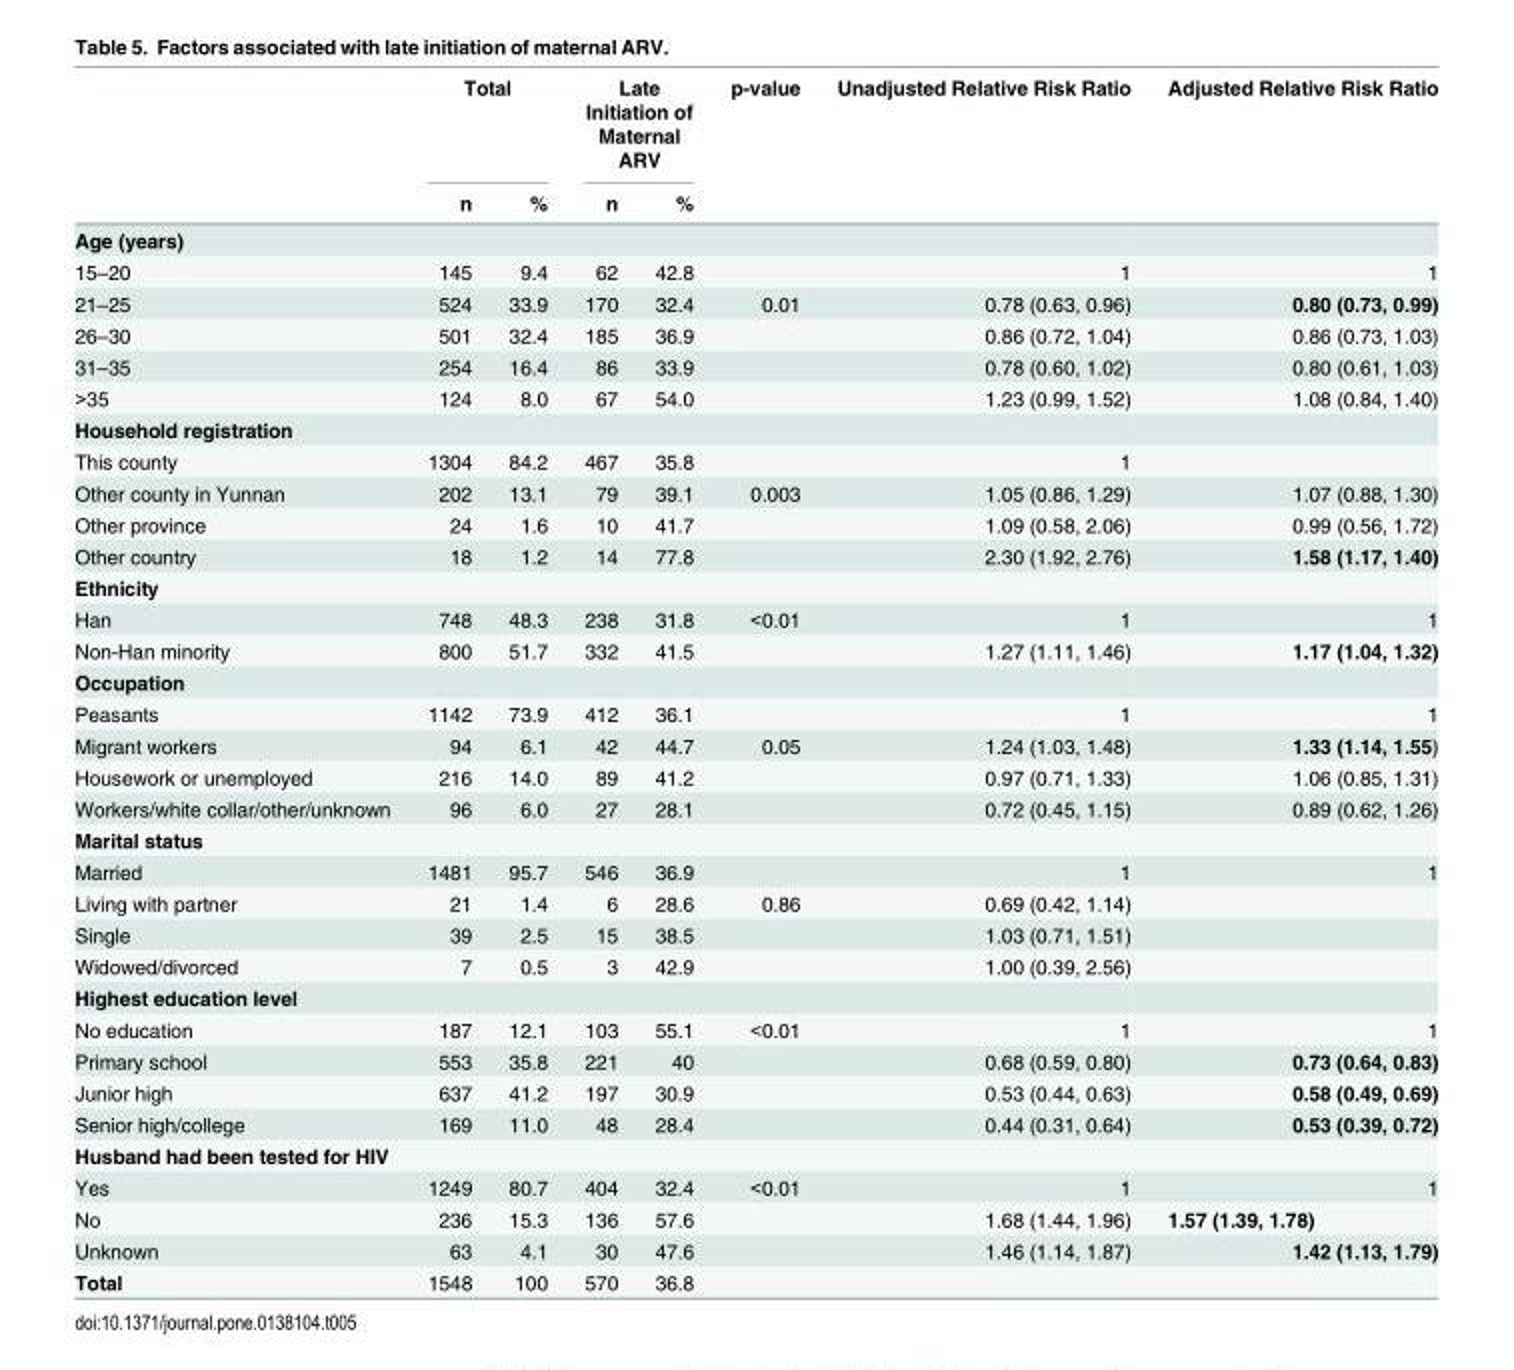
<table><thead><tr><td rowspan="2"></td><td colspan="2">Total</td><td colspan="2">Late Initiation of Maternal ARV</td><td rowspan="2">p-value</td><td rowspan="2">Unadjusted Relative Risk Ratio</td><td rowspan="2">Adjusted Relative Risk Ratio</td></tr><tr><td>n</td><td>%</td><td>n</td><td>%</td></tr></thead><tbody><tr><td colspan="8">Age (years)</td></tr><tr><td>15–20</td><td>145</td><td>9.4</td><td>62</td><td>42.8</td><td></td><td>1</td><td>1</td></tr><tr><td>21–25</td><td>524</td><td>33.9</td><td>170</td><td>32.4</td><td>0.01</td><td>0.78 (0.63, 0.96)</td><td>0.80 (0.73, 0.99)</td></tr><tr><td>26–30</td><td>501</td><td>32.4</td><td>185</td><td>36.9</td><td></td><td>0.86 (0.72, 1.04)</td><td>0.86 (0.73, 1.03)</td></tr><tr><td>31–35</td><td>254</td><td>16.4</td><td>86</td><td>33.9</td><td></td><td>0.78 (0.60, 1.02)</td><td>0.80 (0.61, 1.03)</td></tr><tr><td>&gt;35</td><td>124</td><td>8.0</td><td>67</td><td>54.0</td><td></td><td>1.23 (0.99, 1.52)</td><td>1.08 (0.84, 1.40)</td></tr><tr><td colspan="8">Household registration</td></tr><tr><td>This county</td><td>1304</td><td>84.2</td><td>467</td><td>35.8</td><td></td><td>1</td><td></td></tr><tr><td>Other county in Yunnan</td><td>202</td><td>13.1</td><td>79</td><td>39.1</td><td>0.003</td><td>1.05 (0.86, 1.29)</td><td>1.07 (0.88, 1.30)</td></tr><tr><td>Other province</td><td>24</td><td>1.6</td><td>10</td><td>41.7</td><td></td><td>1.09 (0.58, 2.06)</td><td>0.99 (0.56, 1.72)</td></tr><tr><td>Other country</td><td>18</td><td>1.2</td><td>14</td><td>77.8</td><td></td><td>2.30 (1.92, 2.76)</td><td>1.58 (1.17, 1.40)</td></tr><tr><td colspan="8">Ethnicity</td></tr><tr><td>Han</td><td>748</td><td>48.3</td><td>238</td><td>31.8</td><td>&lt;0.01</td><td>1</td><td>1</td></tr><tr><td>Non-Han minority</td><td>800</td><td>51.7</td><td>332</td><td>41.5</td><td></td><td>1.27 (1.11, 1.46)</td><td>1.17 (1.04, 1.32)</td></tr><tr><td colspan="8">Occupation</td></tr><tr><td>Peasants</td><td>1142</td><td>73.9</td><td>412</td><td>36.1</td><td></td><td>1</td><td>1</td></tr><tr><td>Migrant workers</td><td>94</td><td>6.1</td><td>42</td><td>44.7</td><td>0.05</td><td>1.24 (1.03, 1.48)</td><td>1.33 (1.14, 1.55)</td></tr><tr><td>Housework or unemployed</td><td>216</td><td>14.0</td><td>89</td><td>41.2</td><td></td><td>0.97 (0.71, 1.33)</td><td>1.06 (0.85, 1.31)</td></tr><tr><td>Workers/white collar/other/unknown</td><td>96</td><td>6.0</td><td>27</td><td>28.1</td><td></td><td>0.72 (0.45, 1.15)</td><td>0.89 (0.62, 1.26)</td></tr><tr><td colspan="8">Marital status</td></tr><tr><td>Married</td><td>1481</td><td>95.7</td><td>546</td><td>36.9</td><td></td><td>1</td><td>1</td></tr><tr><td>Living with partner</td><td>21</td><td>1.4</td><td>6</td><td>28.6</td><td>0.86</td><td>0.69 (0.42, 1.14)</td><td></td></tr><tr><td>Single</td><td>39</td><td>2.5</td><td>15</td><td>38.5</td><td></td><td>1.03 (0.71, 1.51)</td><td></td></tr><tr><td>Widowed/divorced</td><td>7</td><td>0.5</td><td>3</td><td>42.9</td><td></td><td>1.00 (0.39, 2.56)</td><td></td></tr><tr><td colspan="8">Highest education level</td></tr><tr><td>No education</td><td>187</td><td>12.1</td><td>103</td><td>55.1</td><td>&lt;0.01</td><td>1</td><td>1</td></tr><tr><td>Primary school</td><td>553</td><td>35.8</td><td>221</td><td>40</td><td></td><td>0.68 (0.59, 0.80)</td><td>0.73 (0.64, 0.83)</td></tr><tr><td>Junior high</td><td>637</td><td>41.2</td><td>197</td><td>30.9</td><td></td><td>0.53 (0.44, 0.63)</td><td>0.58 (0.49, 0.69)</td></tr><tr><td>Senior high/college</td><td>169</td><td>11.0</td><td>48</td><td>28.4</td><td></td><td>0.44 (0.31, 0.64)</td><td>0.53 (0.39, 0.72)</td></tr><tr><td colspan="8">Husband had been tested for HIV</td></tr><tr><td>Yes</td><td>1249</td><td>80.7</td><td>404</td><td>32.4</td><td>&lt;0.01</td><td>1</td><td>1</td></tr><tr><td>No</td><td>236</td><td>15.3</td><td>136</td><td>57.6</td><td></td><td>1.68 (1.44, 1.96)</td><td>1.57 (1.39, 1.78)</td></tr><tr><td>Unknown</td><td>63</td><td>4.1</td><td>30</td><td>47.6</td><td></td><td>1.46 (1.14, 1.87)</td><td>1.42 (1.13, 1.79)</td></tr><tr><td>Total</td><td>1548</td><td>100</td><td>570</td><td>36.8</td><td></td><td></td><td></td></tr></tbody></table>